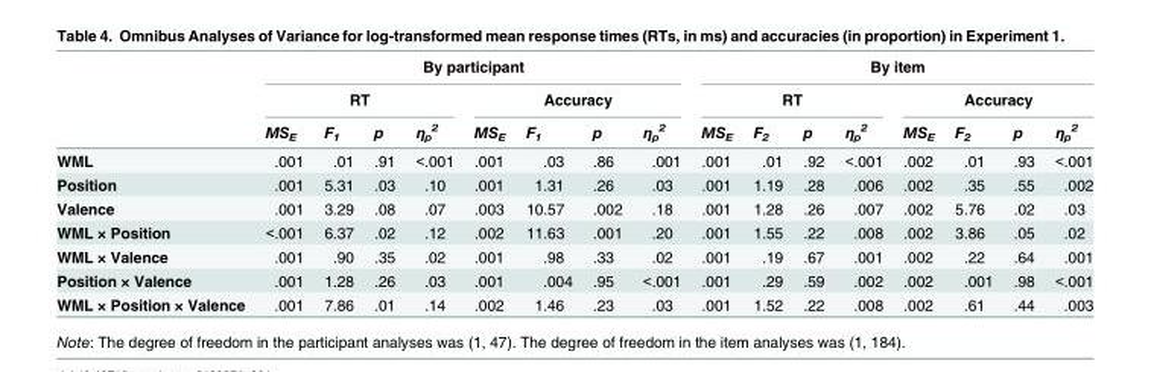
<table><thead><tr><td rowspan="3"></td><td colspan="8">By participant</td><td colspan="8">By item</td></tr><tr><td colspan="4">RT</td><td colspan="4">Accuracy</td><td colspan="4">RT</td><td colspan="4">Accuracy</td></tr><tr><td>MS<sub>E</sub></td><td>F<sub>1</sub></td><td>p</td><td>η<sub>p</sub> <sup>2</sup></td><td>MS<sub>E</sub></td><td>F<sub>1</sub></td><td>p</td><td>η<sub>p</sub> <sup>2</sup></td><td>MS<sub>E</sub></td><td>F<sub>2</sub></td><td>p</td><td>η<sub>p</sub> <sup>2</sup></td><td>MS<sub>E</sub></td><td>F<sub>2</sub></td><td>p</td><td>η<sub>p</sub> <sup>2</sup></td></tr></thead><tbody><tr><td>WML</td><td>.001</td><td>.01</td><td>.91</td><td>&lt;.001</td><td>.001</td><td>.03</td><td>.86</td><td>.001</td><td>.001</td><td>.01</td><td>.92</td><td>&lt;.001</td><td>.002</td><td>.01</td><td>.93</td><td>&lt;.001</td></tr><tr><td>Position</td><td>.001</td><td>5.31</td><td>.03</td><td>.10</td><td>.001</td><td>1.31</td><td>.26</td><td>.03</td><td>.001</td><td>1.19</td><td>.28</td><td>.006</td><td>.002</td><td>.35</td><td>.55</td><td>.002</td></tr><tr><td>Valence</td><td>.001</td><td>3.29</td><td>.08</td><td>.07</td><td>.003</td><td>10.57</td><td>.002</td><td>.18</td><td>.001</td><td>1.28</td><td>.26</td><td>.007</td><td>.002</td><td>5.76</td><td>.02</td><td>.03</td></tr><tr><td>WML × Position</td><td>&lt;.001</td><td>6.37</td><td>.02</td><td>.12</td><td>.002</td><td>11.63</td><td>.001</td><td>.20</td><td>.001</td><td>1.55</td><td>.22</td><td>.008</td><td>.002</td><td>3.86</td><td>.05</td><td>.02</td></tr><tr><td>WML × Valence</td><td>.001</td><td>.90</td><td>.35</td><td>.02</td><td>.001</td><td>.98</td><td>.33</td><td>.02</td><td>.001</td><td>.19</td><td>.67</td><td>.001</td><td>.002</td><td>.22</td><td>.64</td><td>.001</td></tr><tr><td>Position × Valence</td><td>.001</td><td>1.28</td><td>.26</td><td>.03</td><td>.001</td><td>.004</td><td>.95</td><td>&lt;.001</td><td>.001</td><td>.29</td><td>.59</td><td>.002</td><td>.002</td><td>.001</td><td>.98</td><td>&lt;.001</td></tr><tr><td>WML × Position × Valence</td><td>.001</td><td>7.86</td><td>.01</td><td>.14</td><td>.002</td><td>1.46</td><td>.23</td><td>.03</td><td>.001</td><td>1.52</td><td>.22</td><td>.008</td><td>.002</td><td>.61</td><td>.44</td><td>.003</td></tr></tbody></table>